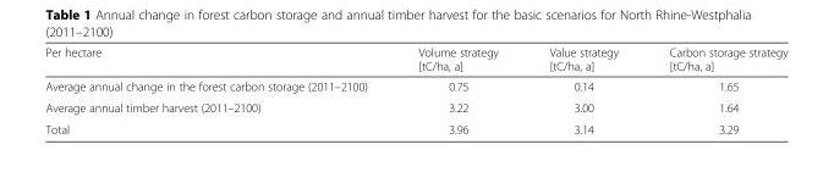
<table><thead><tr><td>Per hectare</td><td>Volume strategy [tC/ha, a]</td><td>Value strategy [tC/ha, a]</td><td>Carbon storage strategy [tC/ha, a]</td></tr></thead><tbody><tr><td>Average annual change in the forest carbon storage (2011–2100)</td><td>0.75</td><td>0.14</td><td>1.65</td></tr><tr><td>Average annual timber harvest (2011–2100)</td><td>3.22</td><td>3.00</td><td>1.64</td></tr><tr><td>Total</td><td>3.96</td><td>3.14</td><td>3.29</td></tr></tbody></table>